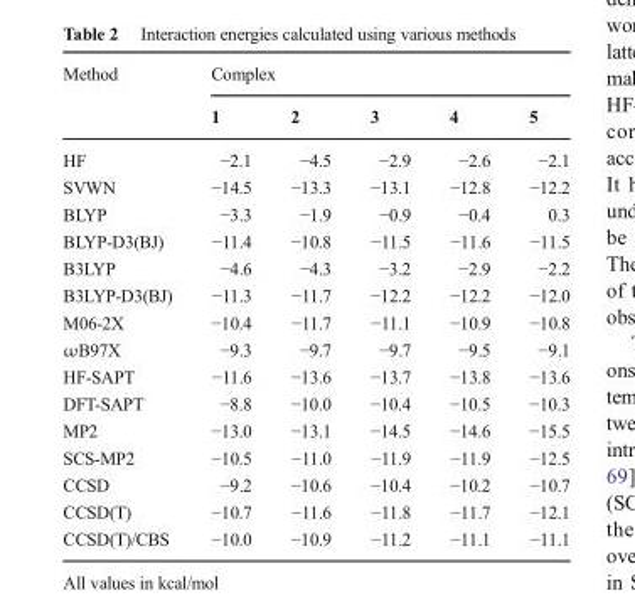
<table><thead><tr><td rowspan="2">Method</td><td colspan="5">Complex</td></tr><tr><td>1</td><td>2</td><td>3</td><td>4</td><td>5</td></tr></thead><tbody><tr><td>HF</td><td>−2.1</td><td>−4.5</td><td>−2.9</td><td>−2.6</td><td>−2.1</td></tr><tr><td>SVWN</td><td>−14.5</td><td>−13.3</td><td>−13.1</td><td>−12.8</td><td>−12.2</td></tr><tr><td>BLYP</td><td>−3.3</td><td>−1.9</td><td>−0.9</td><td>−0.4</td><td>0.3</td></tr><tr><td>BLYP-D3(BJ)</td><td>−11.4</td><td>−10.8</td><td>−11.5</td><td>−11.6</td><td>−11.5</td></tr><tr><td>B3LYP</td><td>−4.6</td><td>−4.3</td><td>−3.2</td><td>−2.9</td><td>−2.2</td></tr><tr><td>B3LYP-D3(BJ)</td><td>−11.3</td><td>−11.7</td><td>−12.2</td><td>−12.2</td><td>−12.0</td></tr><tr><td>M06-2X</td><td>−10.4</td><td>−11.7</td><td>−11.1</td><td>−10.9</td><td>−10.8</td></tr><tr><td>ωB97X</td><td>−9.3</td><td>−9.7</td><td>−9.7</td><td>−9.5</td><td>−9.1</td></tr><tr><td>HF-SAPT</td><td>−11.6</td><td>−13.6</td><td>−13.7</td><td>−13.8</td><td>−13.6</td></tr><tr><td>DFT-SAPT</td><td>−8.8</td><td>−10.0</td><td>−10.4</td><td>−10.5</td><td>−10.3</td></tr><tr><td>MP2</td><td>−13.0</td><td>−13.1</td><td>−14.5</td><td>−14.6</td><td>−15.5</td></tr><tr><td>SCS-MP2</td><td>−10.5</td><td>−11.0</td><td>−11.9</td><td>−11.9</td><td>−12.5</td></tr><tr><td>CCSD</td><td>−9.2</td><td>−10.6</td><td>−10.4</td><td>−10.2</td><td>−10.7</td></tr><tr><td>CCSD(T)</td><td>−10.7</td><td>−11.6</td><td>−11.8</td><td>−11.7</td><td>−12.1</td></tr><tr><td>CCSD(T)/CBS</td><td>−10.0</td><td>−10.9</td><td>−11.2</td><td>−11.1</td><td>−11.1</td></tr></tbody></table>